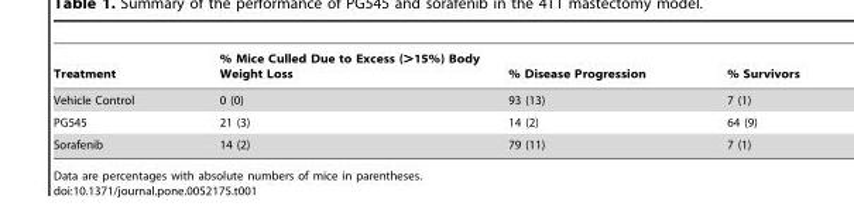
<table><thead><tr><td>Treatment</td><td>% Mice Culled Due to Excess (&gt;15%) Body Weight Loss</td><td>% Disease Progression</td><td>% Survivors</td></tr></thead><tbody><tr><td>Vehicle Control</td><td>0 (0)</td><td>93 (13)</td><td>7 (1)</td></tr><tr><td>PG545</td><td>21 (3)</td><td>14 (2)</td><td>64 (9)</td></tr><tr><td>Sorafenib</td><td>14 (2)</td><td>79 (11)</td><td>7 (1)</td></tr></tbody></table>